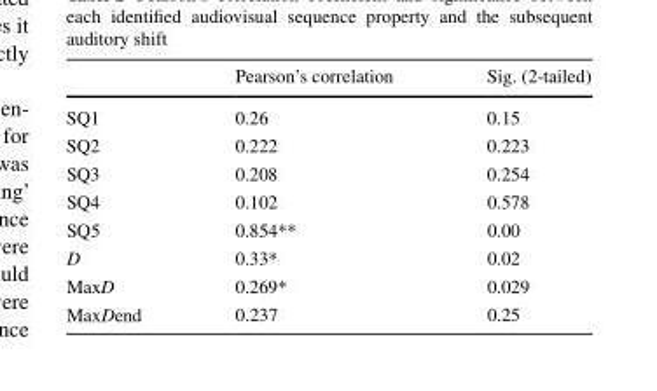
<table><thead><tr><td></td><td>Pearson’s correlation</td><td>Sig. (2-tailed)</td></tr></thead><tbody><tr><td>SQ1</td><td>0.26</td><td>0.15</td></tr><tr><td>SQ2</td><td>0.222</td><td>0.223</td></tr><tr><td>SQ3</td><td>0.208</td><td>0.254</td></tr><tr><td>SQ4</td><td>0.102</td><td>0.578</td></tr><tr><td>SQ5</td><td>0.854**</td><td>0.00</td></tr><tr><td>D</td><td>0.33*</td><td>0.02</td></tr><tr><td>MaxD</td><td>0.269*</td><td>0.029</td></tr><tr><td>MaxDend</td><td>0.237</td><td>0.25</td></tr></tbody></table>